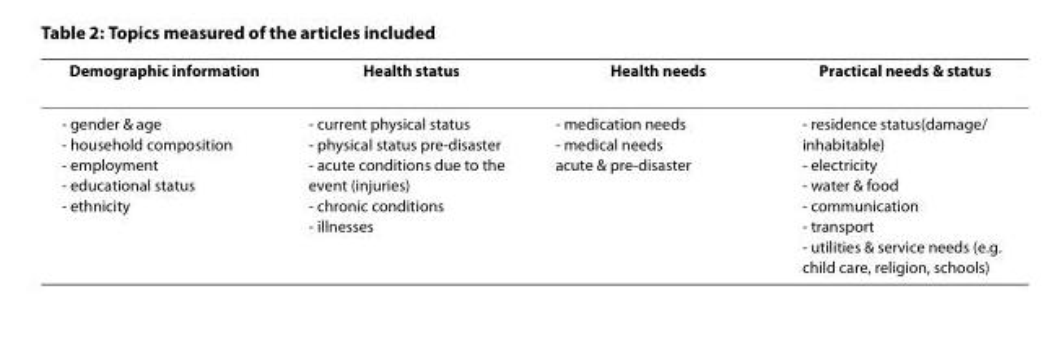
<table><thead><tr><td>Demographic information</td><td>Health status</td><td>Health needs</td><td>Practical needs &amp; status</td></tr></thead><tbody><tr><td>- gender &amp; age - household composition - employment - educational status - ethnicity</td><td>- current physical status - physical status pre-disaster - acute conditions due to the event (injuries) - chronic conditions - illnesses</td><td>- medication needs - medical needs acute &amp; pre-disaster</td><td>- residence status(damage/ inhabitable) - electricity - water &amp; food - communication - transport - utilities &amp; service needs (e.g. child care, religion, schools)</td></tr></tbody></table>